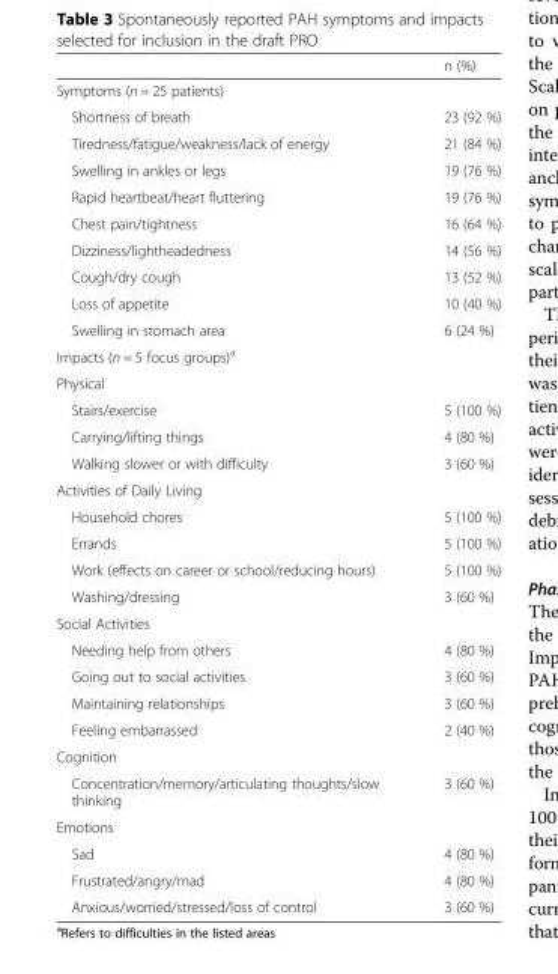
<table><thead><tr><td></td><td>n (%)</td></tr></thead><tbody><tr><td colspan="2">Symptoms (n = 25 patients)</td></tr><tr><td>Shortness of breath</td><td>23 (92 %)</td></tr><tr><td>Tiredness/fatigue/weakness/lack of energy</td><td>21 (84 %)</td></tr><tr><td>Swelling in ankles or legs</td><td>19 (76 %)</td></tr><tr><td>Rapid heartbeat/heart fluttering</td><td>19 (76 %)</td></tr><tr><td>Chest pain/tightness</td><td>16 (64 %)</td></tr><tr><td>Dizziness/lightheadedness</td><td>14 (56 %)</td></tr><tr><td>Cough/dry cough</td><td>13 (52 %)</td></tr><tr><td>Loss of appetite</td><td>10 (40 %)</td></tr><tr><td>Swelling in stomach area</td><td>6 (24 %)</td></tr><tr><td colspan="2">Impacts (n = 5 focus groups)<sup>a</sup></td></tr><tr><td colspan="2">Physical</td></tr><tr><td>Stairs/exercise</td><td>5 (100 %)</td></tr><tr><td>Carrying/lifting things</td><td>4 (80 %)</td></tr><tr><td>Walking slower or with difficulty</td><td>3 (60 %)</td></tr><tr><td colspan="2">Activities of Daily Living</td></tr><tr><td>Household chores</td><td>5 (100 %)</td></tr><tr><td>Errands</td><td>5 (100 %)</td></tr><tr><td>Work (effects on career or school/reducing hours)</td><td>5 (100 %)</td></tr><tr><td>Washing/dressing</td><td>3 (60 %)</td></tr><tr><td colspan="2">Social Activities</td></tr><tr><td>Needing help from others</td><td>4 (80 %)</td></tr><tr><td>Going out to social activities</td><td>3 (60 %)</td></tr><tr><td>Maintaining relationships</td><td>3 (60 %)</td></tr><tr><td>Feeling embarrassed</td><td>2 (40 %)</td></tr><tr><td colspan="2">Cognition</td></tr><tr><td>Concentration/memory/articulating thoughts/slow thinking</td><td>3 (60 %)</td></tr><tr><td colspan="2">Emotions</td></tr><tr><td>Sad</td><td>4 (80 %)</td></tr><tr><td>Frustrated/angry/mad</td><td>4 (80 %)</td></tr><tr><td>Anxious/worried/stressed/loss of control</td><td>3 (60 %)</td></tr></tbody></table>